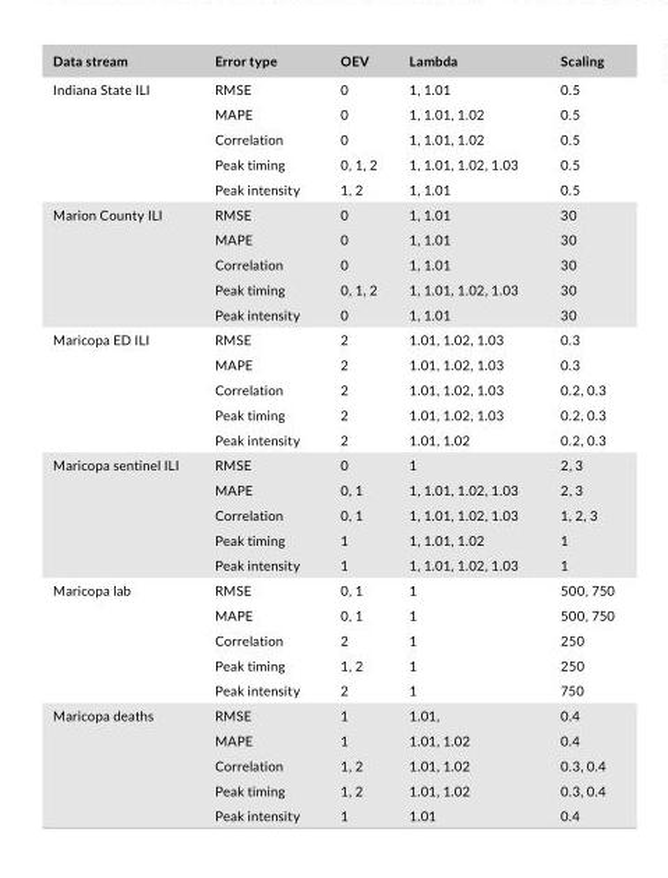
<table><thead><tr><td>Data stream</td><td>Error type</td><td>OEV</td><td>Lambda</td><td>Scaling</td></tr></thead><tbody><tr><td rowspan="5">Indiana State ILI</td><td>RMSE</td><td>0</td><td>1, 1.01</td><td>0.5</td></tr><tr><td>MAPE</td><td>0</td><td>1, 1.01, 1.02</td><td>0.5</td></tr><tr><td>Correlation</td><td>0</td><td>1, 1.01, 1.02</td><td>0.5</td></tr><tr><td>Peak timing</td><td>0, 1, 2</td><td>1, 1.01, 1.02, 1.03</td><td>0.5</td></tr><tr><td>Peak intensity</td><td>1, 2</td><td>1, 1.01</td><td>0.5</td></tr><tr><td rowspan="5">Marion County ILI</td><td>RMSE</td><td>0</td><td>1, 1.01</td><td>30</td></tr><tr><td>MAPE</td><td>0</td><td>1, 1.01</td><td>30</td></tr><tr><td>Correlation</td><td>0</td><td>1, 1.01</td><td>30</td></tr><tr><td>Peak timing</td><td>0, 1, 2</td><td>1, 1.01, 1.02, 1.03</td><td>30</td></tr><tr><td>Peak intensity</td><td>0</td><td>1, 1.01</td><td>30</td></tr><tr><td rowspan="5">Maricopa ED ILI</td><td>RMSE</td><td>2</td><td>1.01, 1.02, 1.03</td><td>0.3</td></tr><tr><td>MAPE</td><td>2</td><td>1.01, 1.02, 1.03</td><td>0.3</td></tr><tr><td>Correlation</td><td>2</td><td>1.01, 1.02, 1.03</td><td>0.2, 0.3</td></tr><tr><td>Peak timing</td><td>2</td><td>1.01, 1.02, 1.03</td><td>0.2, 0.3</td></tr><tr><td>Peak intensity</td><td>2</td><td>1.01, 1.02</td><td>0.2, 0.3</td></tr><tr><td rowspan="5">Maricopa sentinel ILI</td><td>RMSE</td><td>0</td><td>1</td><td>2, 3</td></tr><tr><td>MAPE</td><td>0, 1</td><td>1, 1.01, 1.02, 1.03</td><td>2, 3</td></tr><tr><td>Correlation</td><td>0, 1</td><td>1, 1.01, 1.02, 1.03</td><td>1, 2, 3</td></tr><tr><td>Peak timing</td><td>1</td><td>1, 1.01, 1.02</td><td>1</td></tr><tr><td>Peak intensity</td><td>1</td><td>1, 1.01, 1.02, 1.03</td><td>1</td></tr><tr><td rowspan="5">Maricopa lab</td><td>RMSE</td><td>0, 1</td><td>1</td><td>500, 750</td></tr><tr><td>MAPE</td><td>0, 1</td><td>1</td><td>500, 750</td></tr><tr><td>Correlation</td><td>2</td><td>1</td><td>250</td></tr><tr><td>Peak timing</td><td>1, 2</td><td>1</td><td>250</td></tr><tr><td>Peak intensity</td><td>2</td><td>1</td><td>750</td></tr><tr><td rowspan="5">Maricopa deaths</td><td>RMSE</td><td>1</td><td>1.01,</td><td>0.4</td></tr><tr><td>MAPE</td><td>1</td><td>1.01, 1.02</td><td>0.4</td></tr><tr><td>Correlation</td><td>1, 2</td><td>1.01, 1.02</td><td>0.3, 0.4</td></tr><tr><td>Peak timing</td><td>1, 2</td><td>1.01, 1.02</td><td>0.3, 0.4</td></tr><tr><td>Peak intensity</td><td>1</td><td>1.01</td><td>0.4</td></tr></tbody></table>